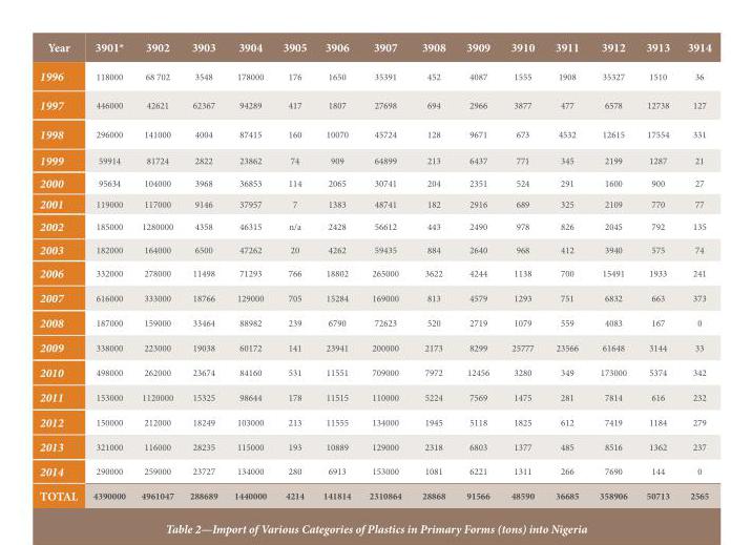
<table><thead><tr><td>Year</td><td>3901*</td><td>3902</td><td>3903</td><td>3904</td><td>3905</td><td>3906</td><td>3907</td><td>3908</td><td>3909</td><td>3910</td><td>3911</td><td>3912</td><td>3913</td><td>3914</td></tr></thead><tbody><tr><td>1996</td><td>118000</td><td>68 702</td><td>3548</td><td>178000</td><td>176</td><td>1650</td><td>35391</td><td>452</td><td>4087</td><td>1555</td><td>1908</td><td>35327</td><td>1510</td><td>36</td></tr><tr><td>1997</td><td>446000</td><td>42621</td><td>62367</td><td>94289</td><td>417</td><td>1807</td><td>27698</td><td>694</td><td>2966</td><td>3877</td><td>477</td><td>6578</td><td>12738</td><td>127</td></tr><tr><td>1998</td><td>296000</td><td>141000</td><td>4004</td><td>87415</td><td>160</td><td>10070</td><td>45724</td><td>128</td><td>9671</td><td>673</td><td>4532</td><td>12615</td><td>17554</td><td>331</td></tr><tr><td>1999</td><td>59914</td><td>81724</td><td>2822</td><td>23862</td><td>74</td><td>909</td><td>64899</td><td>213</td><td>6437</td><td>771</td><td>345</td><td>2199</td><td>1287</td><td>21</td></tr><tr><td>2000</td><td>95634</td><td>104000</td><td>3968</td><td>36853</td><td>114</td><td>2065</td><td>30741</td><td>204</td><td>2351</td><td>524</td><td>291</td><td>1600</td><td>900</td><td>27</td></tr><tr><td>2001</td><td>119000</td><td>117000</td><td>9146</td><td>37957</td><td>7</td><td>1383</td><td>48741</td><td>182</td><td>2916</td><td>689</td><td>325</td><td>2109</td><td>770</td><td>77</td></tr><tr><td>2002</td><td>185000</td><td>1280000</td><td>4358</td><td>46315</td><td>n/a</td><td>2428</td><td>56612</td><td>443</td><td>2490</td><td>978</td><td>826</td><td>2045</td><td>792</td><td>135</td></tr><tr><td>2003</td><td>182000</td><td>164000</td><td>6500</td><td>47262</td><td>20</td><td>4262</td><td>59435</td><td>884</td><td>2640</td><td>968</td><td>412</td><td>3940</td><td>575</td><td>74</td></tr><tr><td>2006</td><td>332000</td><td>278000</td><td>11498</td><td>71293</td><td>766</td><td>18802</td><td>265000</td><td>3622</td><td>4244</td><td>1138</td><td>700</td><td>15491</td><td>1933</td><td>241</td></tr><tr><td>2007</td><td>616000</td><td>333000</td><td>18766</td><td>129000</td><td>705</td><td>15284</td><td>169000</td><td>813</td><td>4579</td><td>1293</td><td>751</td><td>6832</td><td>663</td><td>373</td></tr><tr><td>2008</td><td>187000</td><td>159000</td><td>33464</td><td>88982</td><td>239</td><td>6790</td><td>72623</td><td>520</td><td>2719</td><td>1079</td><td>559</td><td>4083</td><td>167</td><td>0</td></tr><tr><td>2009</td><td>338000</td><td>223000</td><td>19038</td><td>60172</td><td>141</td><td>23941</td><td>200000</td><td>2173</td><td>8299</td><td>25777</td><td>23566</td><td>61648</td><td>3144</td><td>33</td></tr><tr><td>2010</td><td>498000</td><td>262000</td><td>23674</td><td>84160</td><td>531</td><td>11551</td><td>709000</td><td>7972</td><td>12456</td><td>3280</td><td>349</td><td>173000</td><td>5374</td><td>342</td></tr><tr><td>2011</td><td>153000</td><td>1120000</td><td>15325</td><td>98644</td><td>178</td><td>11515</td><td>110000</td><td>5224</td><td>7569</td><td>1475</td><td>281</td><td>7814</td><td>616</td><td>232</td></tr><tr><td>2012</td><td>150000</td><td>212000</td><td>18249</td><td>103000</td><td>213</td><td>11555</td><td>134000</td><td>1945</td><td>5118</td><td>1825</td><td>612</td><td>7419</td><td>1184</td><td>279</td></tr><tr><td>2013</td><td>321000</td><td>116000</td><td>28235</td><td>115000</td><td>193</td><td>10889</td><td>129000</td><td>2318</td><td>6803</td><td>1377</td><td>485</td><td>8516</td><td>1362</td><td>237</td></tr><tr><td>2014</td><td>290000</td><td>259000</td><td>23727</td><td>134000</td><td>280</td><td>6913</td><td>153000</td><td>1081</td><td>6221</td><td>1311</td><td>266</td><td>7690</td><td>144</td><td>0</td></tr><tr><td>TOTAL</td><td>4390000</td><td>4961047</td><td>288689</td><td>1440000</td><td>4214</td><td>141814</td><td>2310864</td><td>28868</td><td>91566</td><td>48590</td><td>36685</td><td>358906</td><td>50713</td><td>2565</td></tr></tbody></table>